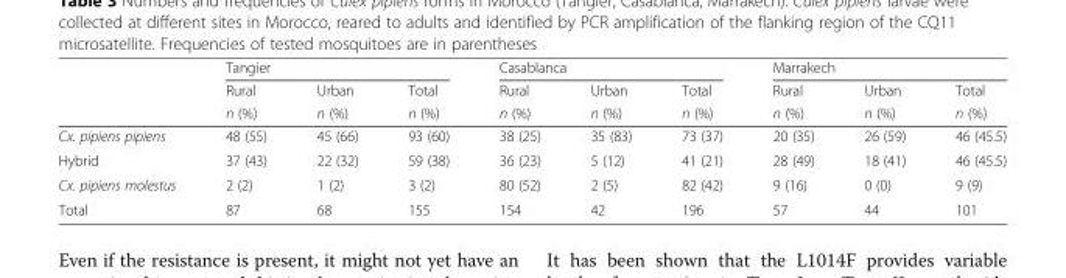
<table><thead><tr><td rowspan="3"></td><td colspan="3">Tangier</td><td colspan="3">Casablanca</td><td colspan="3">Marrakech</td></tr><tr><td rowspan="2">Rural n (%)</td><td rowspan="2">Urban n (%)</td><td rowspan="2">Total n (%)</td><td rowspan="2">Rural n (%)</td><td rowspan="2">Urban n (%)</td><td rowspan="2">Total n (%)</td><td rowspan="2">Rural n (%)</td><td rowspan="2">Urban n (%)</td><td rowspan="2">Total n (%)</td></tr><tr></tr></thead><tbody><tr><td>Cx. pipiens pipiens</td><td>48 (55)</td><td>45 (66)</td><td>93 (60)</td><td>38 (25)</td><td>35 (83)</td><td>73 (37)</td><td>20 (35)</td><td>26 (59)</td><td>46 (45.5)</td></tr><tr><td>Hybrid</td><td>37 (43)</td><td>22 (32)</td><td>59 (38)</td><td>36 (23)</td><td>5 (12)</td><td>41 (21)</td><td>28 (49)</td><td>18 (41)</td><td>46 (45.5)</td></tr><tr><td>Cx. pipiens molestus</td><td>2 (2)</td><td>1 (2)</td><td>3 (2)</td><td>80 (52)</td><td>2 (5)</td><td>82 (42)</td><td>9 (16)</td><td>0 (0)</td><td>9 (9)</td></tr><tr><td>Total</td><td>87</td><td>68</td><td>155</td><td>154</td><td>42</td><td>196</td><td>57</td><td>44</td><td>101</td></tr></tbody></table>